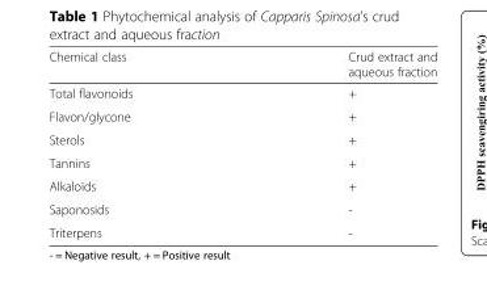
<table><thead><tr><td>Chemical class</td><td>Crud extract and aqueous fraction</td></tr></thead><tbody><tr><td>Total flavonoids</td><td>+</td></tr><tr><td>Flavon/glycone</td><td>+</td></tr><tr><td>Sterols</td><td>+</td></tr><tr><td>Tannins</td><td>+</td></tr><tr><td>Alkaloïds</td><td>+</td></tr><tr><td>Saponosids</td><td>-</td></tr><tr><td>Triterpens</td><td>-</td></tr></tbody></table>